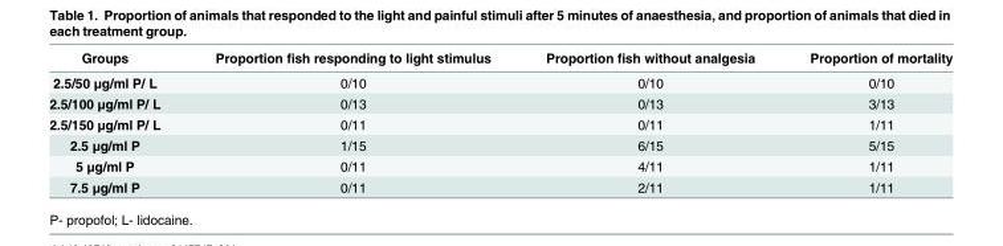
<table><thead><tr><td>Groups</td><td>Proportion fish responding to light stimulus</td><td>Proportion fish without analgesia</td><td>Proportion of mortality</td></tr></thead><tbody><tr><td>2.5/50 μg/ml P/ L</td><td>0/10</td><td>0/10</td><td>0/10</td></tr><tr><td>2.5/100 μg/ml P/ L</td><td>0/13</td><td>0/13</td><td>3/13</td></tr><tr><td>2.5/150 μg/ml P/ L</td><td>0/11</td><td>0/11</td><td>1/11</td></tr><tr><td>2.5 μg/ml P</td><td>1/15</td><td>6/15</td><td>5/15</td></tr><tr><td>5 μg/ml P</td><td>0/11</td><td>4/11</td><td>1/11</td></tr><tr><td>7.5 μg/ml P</td><td>0/11</td><td>2/11</td><td>1/11</td></tr></tbody></table>